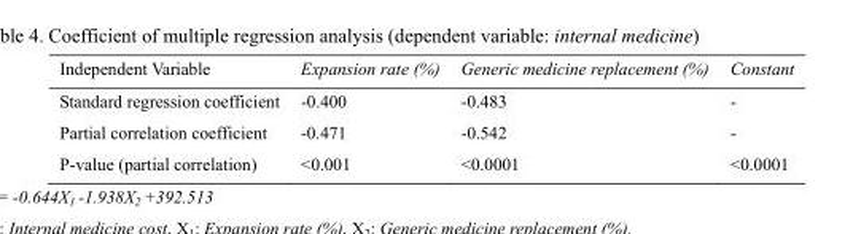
<table><thead><tr><td>Independent Variable</td><td>Expansion rate (%)</td><td>Generic medicine replacement (%)</td><td>Constant</td></tr></thead><tbody><tr><td>Standard regression coefficient</td><td>-0.400</td><td>-0.483</td><td>-</td></tr><tr><td>Partial correlation coefficient</td><td>-0.471</td><td>-0.542</td><td>-</td></tr><tr><td>P-value (partial correlation)</td><td>&lt;0.001</td><td>&lt;0.0001</td><td>&lt;0.0001</td></tr></tbody></table>